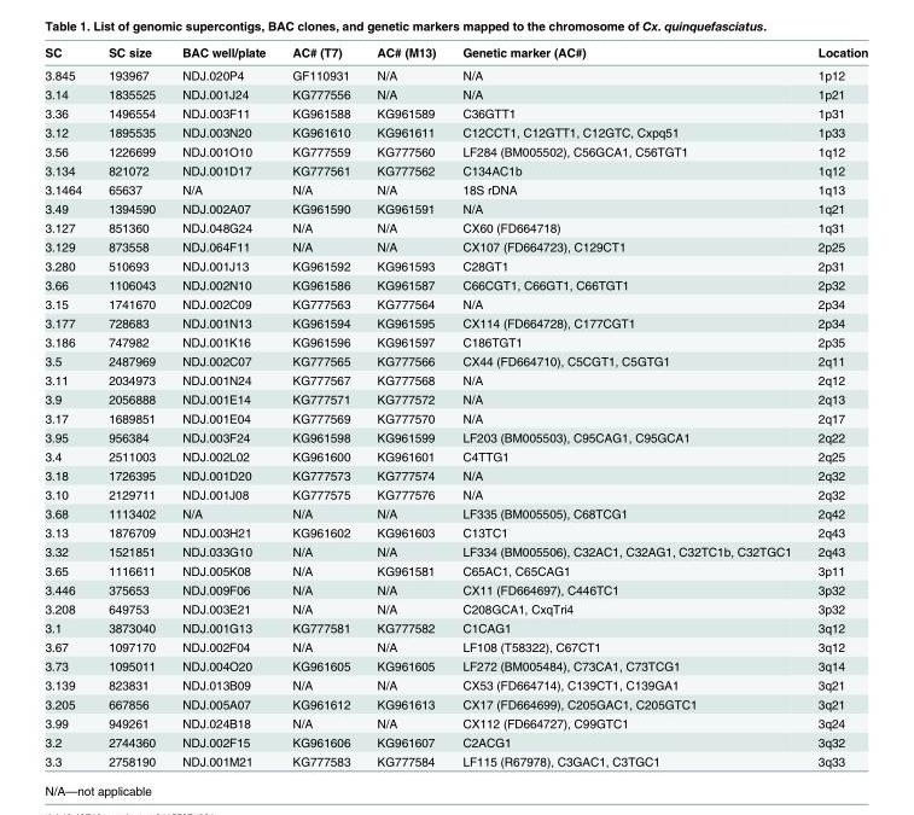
<table><thead><tr><td>SC</td><td>SC size</td><td>BAC well/plate</td><td>AC# (T7)</td><td>AC# (M13)</td><td>Genetic marker (AC#)</td><td>Location</td></tr></thead><tbody><tr><td>3.845</td><td>193967</td><td>NDJ.020P4</td><td>GF110931</td><td>N/A</td><td>N/A</td><td>1p12</td></tr><tr><td>3.14</td><td>1835525</td><td>NDJ.001J24</td><td>KG777556</td><td>N/A</td><td>N/A</td><td>1p21</td></tr><tr><td>3.36</td><td>1496554</td><td>NDJ.003F11</td><td>KG961588</td><td>KG961589</td><td>C36GTT1</td><td>1p31</td></tr><tr><td>3.12</td><td>1895535</td><td>NDJ.003N20</td><td>KG961610</td><td>KG961611</td><td>C12CCT1, C12GTT1, C12GTC, Cxpq51</td><td>1p33</td></tr><tr><td>3.56</td><td>1226699</td><td>NDJ.001O10</td><td>KG777559</td><td>KG777560</td><td>LF284 (BM005502), C56GCA1, C56TGT1</td><td>1q12</td></tr><tr><td>3.134</td><td>821072</td><td>NDJ.001D17</td><td>KG777561</td><td>KG777562</td><td>C134AC1b</td><td>1q12</td></tr><tr><td>3.1464</td><td>65637</td><td>N/A</td><td>N/A</td><td>N/A</td><td>18S rDNA</td><td>1q13</td></tr><tr><td>3.49</td><td>1394590</td><td>NDJ.002A07</td><td>KG961590</td><td>KG961591</td><td>N/A</td><td>1q21</td></tr><tr><td>3.127</td><td>851360</td><td>NDJ.048G24</td><td>N/A</td><td>N/A</td><td>CX60 (FD664718)</td><td>1q31</td></tr><tr><td>3.129</td><td>873558</td><td>NDJ.064F11</td><td>N/A</td><td>N/A</td><td>CX107 (FD664723), C129CT1</td><td>2p25</td></tr><tr><td>3.280</td><td>510693</td><td>NDJ.001J13</td><td>KG961592</td><td>KG961593</td><td>C28GT1</td><td>2p31</td></tr><tr><td>3.66</td><td>1106043</td><td>NDJ.002N10</td><td>KG961586</td><td>KG961587</td><td>C66CGT1, C66GT1, C66TGT1</td><td>2p32</td></tr><tr><td>3.15</td><td>1741670</td><td>NDJ.002C09</td><td>KG777563</td><td>KG777564</td><td>N/A</td><td>2p34</td></tr><tr><td>3.177</td><td>728683</td><td>NDJ.001N13</td><td>KG961594</td><td>KG961595</td><td>CX114 (FD664728), C177CGT1</td><td>2p34</td></tr><tr><td>3.186</td><td>747982</td><td>NDJ.001K16</td><td>KG961596</td><td>KG961597</td><td>C186TGT1</td><td>2p35</td></tr><tr><td>3.5</td><td>2487969</td><td>NDJ.002C07</td><td>KG777565</td><td>KG777566</td><td>CX44 (FD664710), C5CGT1, C5GTG1</td><td>2q11</td></tr><tr><td>3.11</td><td>2034973</td><td>NDJ.001N24</td><td>KG777567</td><td>KG777568</td><td>N/A</td><td>2q12</td></tr><tr><td>3.9</td><td>2056888</td><td>NDJ.001E14</td><td>KG777571</td><td>KG777572</td><td>N/A</td><td>2q13</td></tr><tr><td>3.17</td><td>1689851</td><td>NDJ.001E04</td><td>KG777569</td><td>KG777570</td><td>N/A</td><td>2q17</td></tr><tr><td>3.95</td><td>956384</td><td>NDJ.003F24</td><td>KG961598</td><td>KG961599</td><td>LF203 (BM005503), C95CAG1, C95GCA1</td><td>2q22</td></tr><tr><td>3.4</td><td>2511003</td><td>NDJ.002L02</td><td>KG961600</td><td>KG961601</td><td>C4TTG1</td><td>2q25</td></tr><tr><td>3.18</td><td>1726395</td><td>NDJ.001D20</td><td>KG777573</td><td>KG777574</td><td>N/A</td><td>2q32</td></tr><tr><td>3.10</td><td>2129711</td><td>NDJ.001J08</td><td>KG777575</td><td>KG777576</td><td>N/A</td><td>2q32</td></tr><tr><td>3.68</td><td>1113402</td><td>N/A</td><td>N/A</td><td>N/A</td><td>LF335 (BM005505), C68TCG1</td><td>2q42</td></tr><tr><td>3.13</td><td>1876709</td><td>NDJ.003H21</td><td>KG961602</td><td>KG961603</td><td>C13TC1</td><td>2q43</td></tr><tr><td>3.32</td><td>1521851</td><td>NDJ.033G10</td><td>N/A</td><td>N/A</td><td>LF334 (BM005506), C32AC1, C32AG1, C32TC1b, C32TGC1</td><td>2q43</td></tr><tr><td>3.65</td><td>1116611</td><td>NDJ.005K08</td><td>N/A</td><td>KG961581</td><td>C65AC1, C65CAG1</td><td>3p11</td></tr><tr><td>3.446</td><td>375653</td><td>NDJ.009F06</td><td>N/A</td><td>N/A</td><td>CX11 (FD664697), C446TC1</td><td>3p32</td></tr><tr><td>3.208</td><td>649753</td><td>NDJ.003E21</td><td>N/A</td><td>N/A</td><td>C208GCA1, CxqTri4</td><td>3p32</td></tr><tr><td>3.1</td><td>3873040</td><td>NDJ.001G13</td><td>KG777581</td><td>KG777582</td><td>C1CAG1</td><td>3q12</td></tr><tr><td>3.67</td><td>1097170</td><td>NDJ.002F04</td><td>N/A</td><td>N/A</td><td>LF108 (T58322), C67CT1</td><td>3q12</td></tr><tr><td>3.73</td><td>1095011</td><td>NDJ.004O20</td><td>KG961605</td><td>KG961605</td><td>LF272 (BM005484), C73CA1, C73TCG1</td><td>3q14</td></tr><tr><td>3.139</td><td>823831</td><td>NDJ.013B09</td><td>N/A</td><td>N/A</td><td>CX53 (FD664714), C139CT1, C139GA1</td><td>3q21</td></tr><tr><td>3.205</td><td>667856</td><td>NDJ.005A07</td><td>KG961612</td><td>KG961613</td><td>CX17 (FD664699), C205GAC1, C205GTC1</td><td>3q21</td></tr><tr><td>3.99</td><td>949261</td><td>NDJ.024B18</td><td>N/A</td><td>N/A</td><td>CX112 (FD664727), C99GTC1</td><td>3q24</td></tr><tr><td>3.2</td><td>2744360</td><td>NDJ.002F15</td><td>KG961606</td><td>KG961607</td><td>C2ACG1</td><td>3q32</td></tr><tr><td>3.3</td><td>2758190</td><td>NDJ.001M21</td><td>KG777583</td><td>KG777584</td><td>LF115 (R67978), C3GAC1, C3TGC1</td><td>3q33</td></tr></tbody></table>